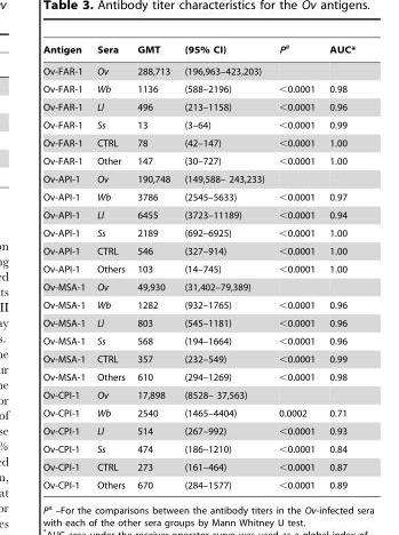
<table><thead><tr><td>Antigen</td><td>Sera</td><td>GMT</td><td>(95% CI)</td><td>P<sup>a</sup></td><td>AUC*</td></tr></thead><tbody><tr><td>Ov-FAR-1</td><td>Ov</td><td>288,713</td><td>(196,963–423,203)</td><td></td><td></td></tr><tr><td>Ov-FAR-1</td><td>Wb</td><td>1136</td><td>(588–2196)</td><td>&lt;0.0001</td><td>0.98</td></tr><tr><td>Ov-FAR-1</td><td>Ll</td><td>496</td><td>(213–1158)</td><td>&lt;0.0001</td><td>0.96</td></tr><tr><td>Ov-FAR-1</td><td>Ss</td><td>13</td><td>(3–64)</td><td>&lt;0.0001</td><td>0.99</td></tr><tr><td>Ov-FAR-1</td><td>CTRL</td><td>78</td><td>(42–147)</td><td>&lt;0.0001</td><td>1.00</td></tr><tr><td>Ov-FAR-1</td><td>Other</td><td>147</td><td>(30–727)</td><td>&lt;0.0001</td><td>1.00</td></tr><tr><td>Ov-API-1</td><td>Ov</td><td>190,748</td><td>(149,588– 243,233)</td><td></td><td></td></tr><tr><td>Ov-API-1</td><td>Wb</td><td>3786</td><td>(2545–5633)</td><td>&lt;0.0001</td><td>0.97</td></tr><tr><td>Ov-API-1</td><td>Ll</td><td>6455</td><td>(3723–11189)</td><td>&lt;0.0001</td><td>0.94</td></tr><tr><td>Ov-API-1</td><td>Ss</td><td>2189</td><td>(692–6925)</td><td>&lt;0.0001</td><td>1.00</td></tr><tr><td>Ov-API-1</td><td>CTRL</td><td>546</td><td>(327–914)</td><td>&lt;0.0001</td><td>1.00</td></tr><tr><td>Ov-API-1</td><td>Others</td><td>103</td><td>(14–745)</td><td>&lt;0.0001</td><td>1.00</td></tr><tr><td>Ov-MSA-1</td><td>Ov</td><td>49,930</td><td>(31,402–79,389)</td><td></td><td></td></tr><tr><td>Ov-MSA-1</td><td>Wb</td><td>1282</td><td>(932–1765)</td><td>&lt;0.0001</td><td>0.96</td></tr><tr><td>Ov-MSA-1</td><td>Ll</td><td>803</td><td>(545–1181)</td><td>&lt;0.0001</td><td>0.96</td></tr><tr><td>Ov-MSA-1</td><td>Ss</td><td>568</td><td>(194–1664)</td><td>&lt;0.0001</td><td>0.96</td></tr><tr><td>Ov-MSA-1</td><td>CTRL</td><td>357</td><td>(232–549)</td><td>&lt;0.0001</td><td>0.99</td></tr><tr><td>Ov-MSA-1</td><td>Others</td><td>610</td><td>(294–1269)</td><td>&lt;0.0001</td><td>0.98</td></tr><tr><td>Ov-CPI-1</td><td>Ov</td><td>17,898</td><td>(8528– 37,563)</td><td></td><td></td></tr><tr><td>Ov-CPI-1</td><td>Wb</td><td>2540</td><td>(1465–4404)</td><td>0.0002</td><td>0.71</td></tr><tr><td>Ov-CPI-1</td><td>Ll</td><td>514</td><td>(267–992)</td><td>&lt;0.0001</td><td>0.93</td></tr><tr><td>Ov-CPI-1</td><td>Ss</td><td>474</td><td>(186–1210)</td><td>&lt;0.0001</td><td>0.84</td></tr><tr><td>Ov-CPI-1</td><td>CTRL</td><td>273</td><td>(161–464)</td><td>&lt;0.0001</td><td>0.87</td></tr><tr><td>Ov-CPI-1</td><td>Others</td><td>670</td><td>(284–1577)</td><td>&lt;0.0001</td><td>0.89</td></tr></tbody></table>